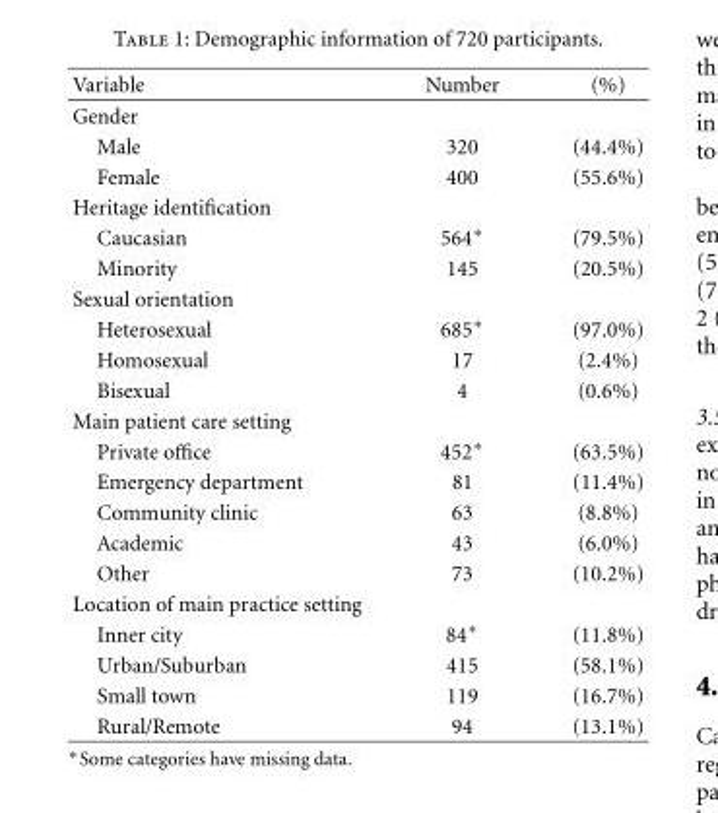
<table><thead><tr><td>Variable</td><td>Number</td><td>(%)</td></tr></thead><tbody><tr><td colspan="3">Gender</td></tr><tr><td>Male</td><td>320</td><td>(44.4%)</td></tr><tr><td>Female</td><td>400</td><td>(55.6%)</td></tr><tr><td colspan="3">Heritage identification</td></tr><tr><td>Caucasian</td><td>564∗</td><td>(79.5%)</td></tr><tr><td>Minority</td><td>145</td><td>(20.5%)</td></tr><tr><td colspan="3">Sexual orientation</td></tr><tr><td>Heterosexual</td><td>685∗</td><td>(97.0%)</td></tr><tr><td>Homosexual</td><td>17</td><td>(2.4%)</td></tr><tr><td>Bisexual</td><td>4</td><td>(0.6%)</td></tr><tr><td colspan="3">Main patient care setting</td></tr><tr><td>Private office</td><td>452∗</td><td>(63.5%)</td></tr><tr><td>Emergency department</td><td>81</td><td>(11.4%)</td></tr><tr><td>Community clinic</td><td>63</td><td>(8.8%)</td></tr><tr><td>Academic</td><td>43</td><td>(6.0%)</td></tr><tr><td>Other</td><td>73</td><td>(10.2%)</td></tr><tr><td colspan="3">Location of main practice setting</td></tr><tr><td>Inner city</td><td>84∗</td><td>(11.8%)</td></tr><tr><td>Urban/Suburban</td><td>415</td><td>(58.1%)</td></tr><tr><td>Small town</td><td>119</td><td>(16.7%)</td></tr><tr><td>Rural/Remote</td><td>94</td><td>(13.1%)</td></tr></tbody></table>